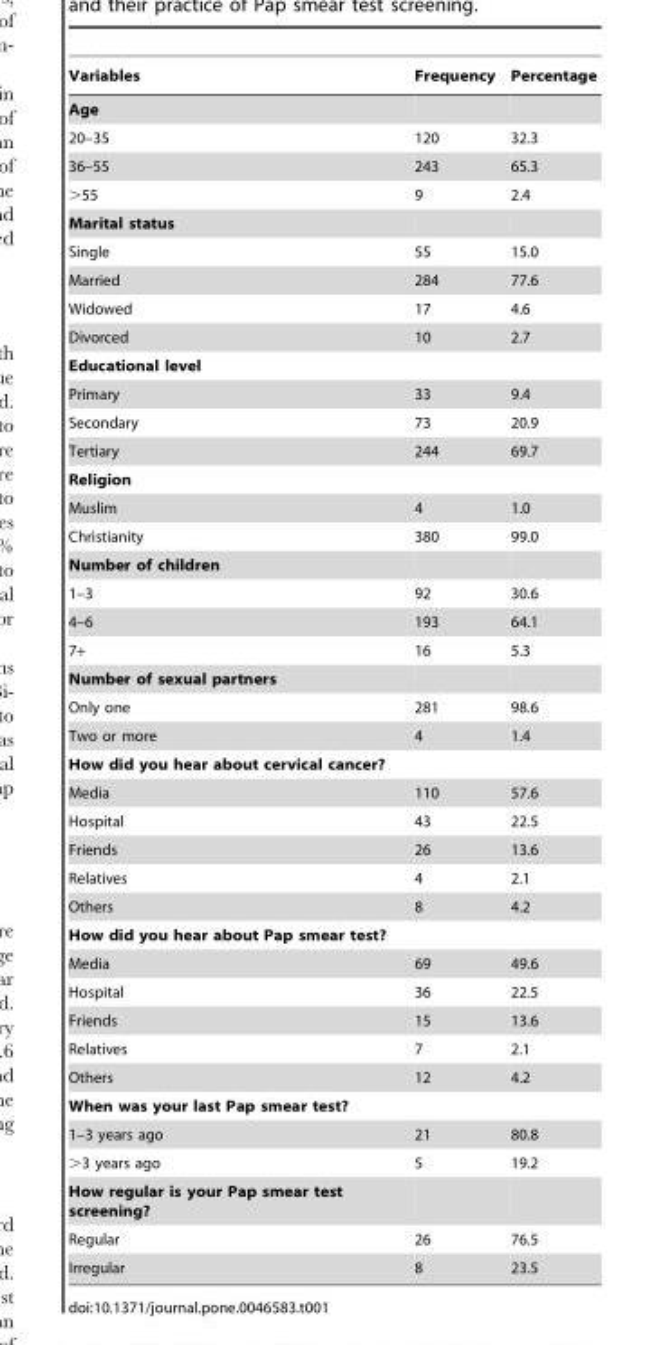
<table><thead><tr><td>Variables</td><td>Frequency</td><td>Percentage</td></tr></thead><tbody><tr><td colspan="3">Age</td></tr><tr><td>20–35</td><td>120</td><td>32.3</td></tr><tr><td>36–55</td><td>243</td><td>65.3</td></tr><tr><td>&gt;55</td><td>9</td><td>2.4</td></tr><tr><td colspan="3">Marital status</td></tr><tr><td>Single</td><td>55</td><td>15.0</td></tr><tr><td>Married</td><td>284</td><td>77.6</td></tr><tr><td>Widowed</td><td>17</td><td>4.6</td></tr><tr><td>Divorced</td><td>10</td><td>2.7</td></tr><tr><td colspan="3">Educational level</td></tr><tr><td>Primary</td><td>33</td><td>9.4</td></tr><tr><td>Secondary</td><td>73</td><td>20.9</td></tr><tr><td>Tertiary</td><td>244</td><td>69.7</td></tr><tr><td colspan="3">Religion</td></tr><tr><td>Muslim</td><td>4</td><td>1.0</td></tr><tr><td>Christianity</td><td>380</td><td>99.0</td></tr><tr><td colspan="3">Number of children</td></tr><tr><td>1–3</td><td>92</td><td>30.6</td></tr><tr><td>4–6</td><td>193</td><td>64.1</td></tr><tr><td>7+</td><td>16</td><td>5.3</td></tr><tr><td colspan="3">Number of sexual partners</td></tr><tr><td>Only one</td><td>281</td><td>98.6</td></tr><tr><td>Two or more</td><td>4</td><td>1.4</td></tr><tr><td colspan="3">How did you hear about cervical cancer?</td></tr><tr><td>Media</td><td>110</td><td>57.6</td></tr><tr><td>Hospital</td><td>43</td><td>22.5</td></tr><tr><td>Friends</td><td>26</td><td>13.6</td></tr><tr><td>Relatives</td><td>4</td><td>2.1</td></tr><tr><td>Others</td><td>8</td><td>4.2</td></tr><tr><td colspan="3">How did you hear about Pap smear test?</td></tr><tr><td>Media</td><td>69</td><td>49.6</td></tr><tr><td>Hospital</td><td>36</td><td>22.5</td></tr><tr><td>Friends</td><td>15</td><td>13.6</td></tr><tr><td>Relatives</td><td>7</td><td>2.1</td></tr><tr><td>Others</td><td>12</td><td>4.2</td></tr><tr><td colspan="3">When was your last Pap smear test?</td></tr><tr><td>1–3 years ago</td><td>21</td><td>80.8</td></tr><tr><td>&gt;3 years ago</td><td>5</td><td>19.2</td></tr><tr><td colspan="3">How regular is your Pap smear test screening?</td></tr><tr><td>Regular</td><td>26</td><td>76.5</td></tr><tr><td>Irregular</td><td>8</td><td>23.5</td></tr></tbody></table>